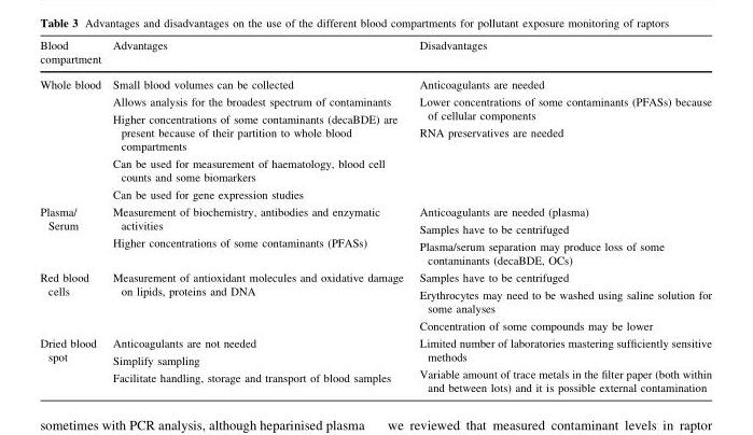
<table><thead><tr><td>Blood compartment</td><td>Advantages</td><td>Disadvantages</td></tr></thead><tbody><tr><td>Whole blood</td><td>Small blood volumes can be collected Allows analysis for the broadest spectrum of contaminants Higher concentrations of some contaminants (decaBDE) are present because of their partition to whole blood compartments Can be used for measurement of haematology, blood cell counts and some biomarkers Can be used for gene expression studies</td><td>Anticoagulants are needed Lower concentrations of some contaminants (PFASs) because of cellular components RNA preservatives are needed</td></tr><tr><td>Plasma/ Serum</td><td>Measurement of biochemistry, antibodies and enzymatic activities Higher concentrations of some contaminants (PFASs)</td><td>Anticoagulants are needed (plasma) Samples have to be centrifuged Plasma/serum separation may produce loss of some contaminants (decaBDE, OCs)</td></tr><tr><td>Red blood cells</td><td>Measurement of antioxidant molecules and oxidative damage on lipids, proteins and DNA</td><td>Samples have to be centrifuged Erythrocytes may need to be washed using saline solution for some analyses Concentration of some compounds may be lower</td></tr><tr><td>Dried blood spot</td><td>Anticoagulants are not needed Simplify sampling Facilitate handling, storage and transport of blood samples</td><td>Limited number of laboratories mastering sufficiently sensitive methods Variable amount of trace metals in the filter paper (both within and between lots) and it is possible external contamination</td></tr></tbody></table>